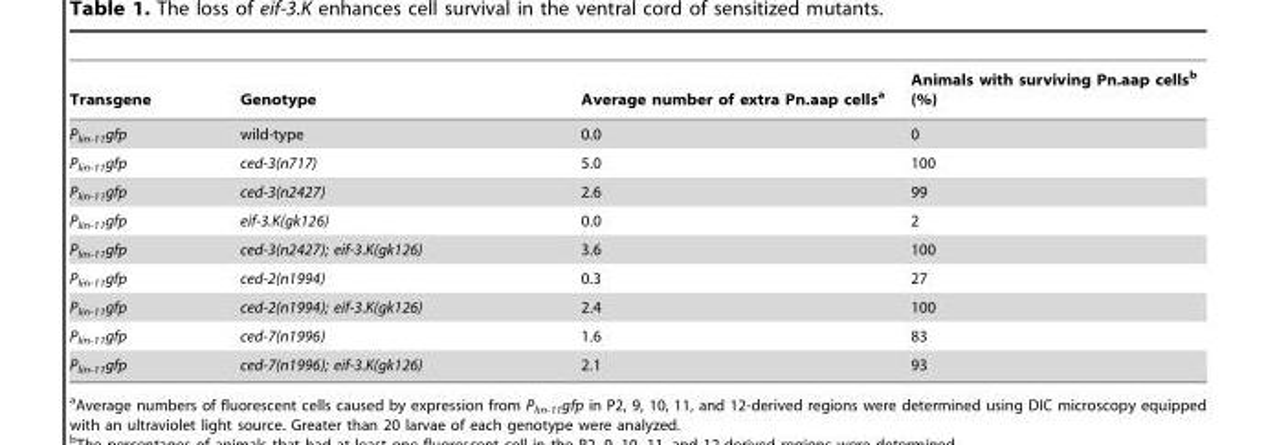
<table><thead><tr><td>Transgene</td><td>Genotype</td><td>Average number of extra Pn.aap cells<sup>a</sup></td><td>Animals with surviving Pn.aap cells<sup>b</sup> (%)</td></tr></thead><tbody><tr><td>P<sub>lin-11</sub>gfp</td><td>wild-type</td><td>0.0</td><td>0</td></tr><tr><td>P<sub>lin-11</sub>gfp</td><td>ced-3(n717)</td><td>5.0</td><td>100</td></tr><tr><td>P<sub>lin-11</sub>gfp</td><td>ced-3(n2427)</td><td>2.6</td><td>99</td></tr><tr><td>P<sub>lin-11</sub>gfp</td><td>eif-3.K(gk126)</td><td>0.0</td><td>2</td></tr><tr><td>P<sub>lin-11</sub>gfp</td><td>ced-3(n2427); eif-3.K(gk126)</td><td>3.6</td><td>100</td></tr><tr><td>P<sub>lin-11</sub>gfp</td><td>ced-2(n1994)</td><td>0.3</td><td>27</td></tr><tr><td>P<sub>lin-11</sub>gfp</td><td>ced-2(n1994); eif-3.K(gk126)</td><td>2.4</td><td>100</td></tr><tr><td>P<sub>lin-11</sub>gfp</td><td>ced-7(n1996)</td><td>1.6</td><td>83</td></tr><tr><td>P<sub>lin-11</sub>gfp</td><td>ced-7(n1996); eif-3.K(gk126)</td><td>2.1</td><td>93</td></tr></tbody></table>